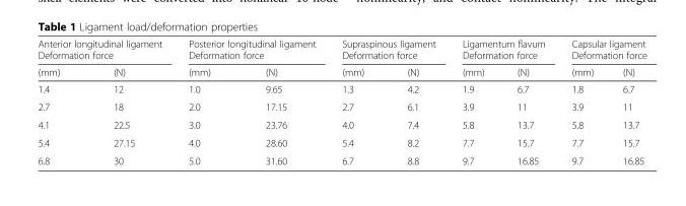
<table><thead><tr><td rowspan="2" colspan="2">Anterior longitudinal ligament Deformation force</td><td rowspan="2" colspan="2">Posterior longitudinal ligament Deformation force</td><td rowspan="2" colspan="2">Supraspinous ligament Deformation force</td><td rowspan="2" colspan="2">Ligamentum flavum Deformation force</td><td rowspan="2" colspan="2">Capsular ligament Deformation force</td></tr><tr></tr><tr><td>(mm)</td><td>(N)</td><td>(mm)</td><td>(N)</td><td>(mm)</td><td>(N)</td><td>(mm)</td><td>(N)</td><td>(mm)</td><td>(N)</td></tr></thead><tbody><tr><td>1.4</td><td>12</td><td>1.0</td><td>9.65</td><td>1.3</td><td>4.2</td><td>1.9</td><td>6.7</td><td>1.8</td><td>6.7</td></tr><tr><td>2.7</td><td>18</td><td>2.0</td><td>17.15</td><td>2.7</td><td>6.1</td><td>3.9</td><td>11</td><td>3.9</td><td>11</td></tr><tr><td>4.1</td><td>22.5</td><td>3.0</td><td>23.76</td><td>4.0</td><td>7.4</td><td>5.8</td><td>13.7</td><td>5.8</td><td>13.7</td></tr><tr><td>5.4</td><td>27.15</td><td>4.0</td><td>28.60</td><td>5.4</td><td>8.2</td><td>7.7</td><td>15.7</td><td>7.7</td><td>15.7</td></tr><tr><td>6.8</td><td>30</td><td>5.0</td><td>31.60</td><td>6.7</td><td>8.8</td><td>9.7</td><td>16.85</td><td>9.7</td><td>16.85</td></tr></tbody></table>